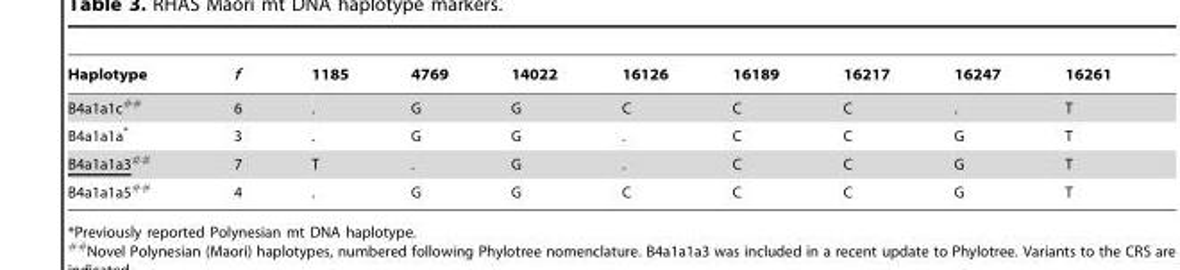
<table><thead><tr><td>Haplotype</td><td>f</td><td>1185</td><td>4769</td><td>14022</td><td>16126</td><td>16189</td><td>16217</td><td>16247</td><td>16261</td></tr></thead><tbody><tr><td>B4a1a1c##</td><td>6</td><td>.</td><td>G</td><td>G</td><td>C</td><td>C</td><td>C</td><td>.</td><td>T</td></tr><tr><td>B4a1a1a*</td><td>3</td><td>.</td><td>G</td><td>G</td><td>.</td><td>C</td><td>C</td><td>G</td><td>T</td></tr><tr><td>B4a1a1a3##</td><td>7</td><td>T</td><td>.</td><td>G</td><td>.</td><td>C</td><td>C</td><td>G</td><td>T</td></tr><tr><td>B4a1a1a5##</td><td>4</td><td>.</td><td>G</td><td>G</td><td>C</td><td>C</td><td>C</td><td>G</td><td>T</td></tr></tbody></table>